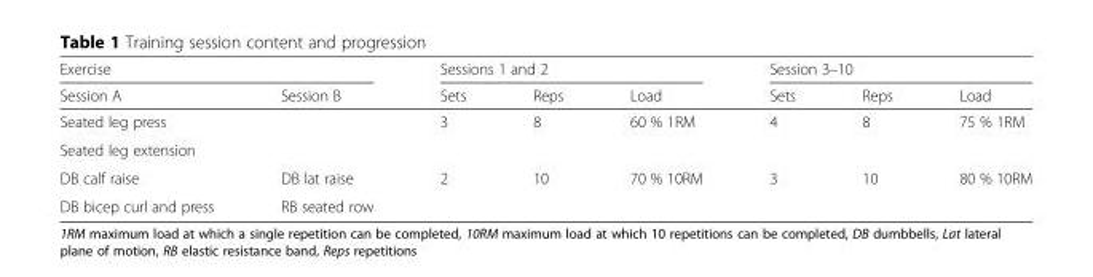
<table><thead><tr><td colspan="2">Exercise</td><td colspan="3">Sessions 1 and 2</td><td colspan="3">Session 3–10</td></tr><tr><td>Session A</td><td>Session B</td><td>Sets</td><td>Reps</td><td>Load</td><td>Sets</td><td>Reps</td><td>Load</td></tr></thead><tbody><tr><td colspan="2">Seated leg press</td><td rowspan="2">3</td><td rowspan="2">8</td><td rowspan="2">60 % 1RM</td><td rowspan="2">4</td><td rowspan="2">8</td><td rowspan="2">75 % 1RM</td></tr><tr><td colspan="2">Seated leg extension</td></tr><tr><td>DB calf raise</td><td>DB lat raise</td><td rowspan="2">2</td><td rowspan="2">10</td><td rowspan="2">70 % 10RM</td><td rowspan="2">3</td><td rowspan="2">10</td><td rowspan="2">80 % 10RM</td></tr><tr><td>DB bicep curl and press</td><td>RB seated row</td></tr></tbody></table>